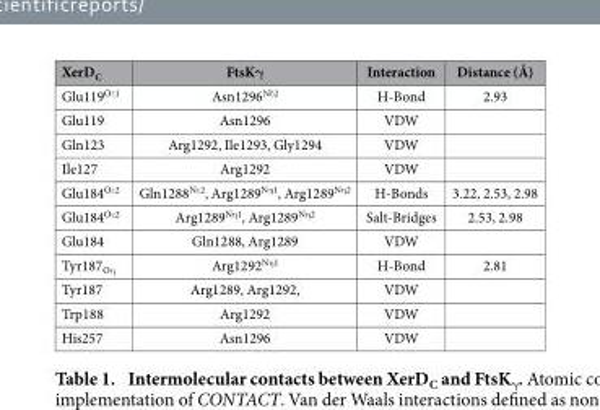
<table><thead><tr><td>XerD<sub>C</sub></td><td>FtsKγ</td><td>Interaction</td><td>Distance (Å)</td></tr></thead><tbody><tr><td>Glu119<sup>Oε1</sup></td><td>Asn1296<sup>Nδ2</sup></td><td>H-Bond</td><td>2.93</td></tr><tr><td>Glu119</td><td>Asn1296</td><td>VDW</td><td></td></tr><tr><td>Gln123</td><td>Arg1292, Ile1293, Gly1294</td><td>VDW</td><td></td></tr><tr><td>Ile127</td><td>Arg1292</td><td>VDW</td><td></td></tr><tr><td>Glu184<sup>Oε2</sup></td><td>Gln1288<sup>Nε2</sup>, Arg1289<sup>Nη1</sup>, Arg1289<sup>Nη2</sup></td><td>H-Bonds</td><td>3.22, 2.53, 2.98</td></tr><tr><td>Glu184<sup>Oε2</sup></td><td>Arg1289<sup>Nη1</sup>, Arg1289<sup>Nη2</sup></td><td>Salt-Bridges</td><td>2.53, 2.98</td></tr><tr><td>Glu184</td><td>Gln1288, Arg1289</td><td>VDW</td><td></td></tr><tr><td>Tyr187<sub>Oη</sub></td><td>Arg1292<sup>Nη1</sup></td><td>H-Bond</td><td>2.81</td></tr><tr><td>Tyr187</td><td>Arg1289, Arg1292,</td><td>VDW</td><td></td></tr><tr><td>Trp188</td><td>Arg1292</td><td>VDW</td><td></td></tr><tr><td>His257</td><td>Asn1296</td><td>VDW</td><td></td></tr></tbody></table>